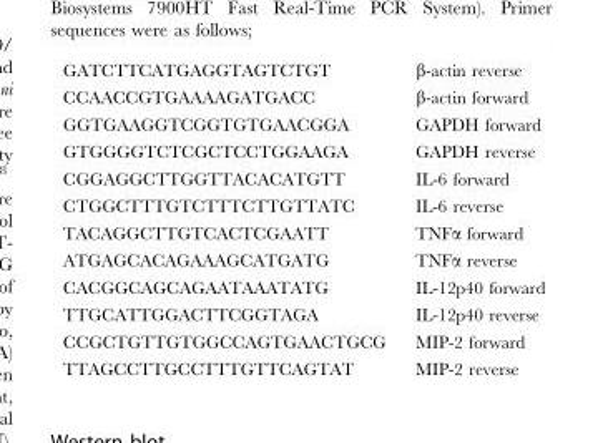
<table><tbody><tr><td>GATCTTCATGAGGTAGTCTGT</td><td>β-actin reverse</td></tr><tr><td>CCAACCGTGAAAAGATGACC</td><td>β-actin forward</td></tr><tr><td>GGTGAAGGTCGGTGTGAACGGA</td><td>GAPDH forward</td></tr><tr><td>GTGGGGTCTCGCTCCTGGAAGA</td><td>GAPDH reverse</td></tr><tr><td>CGGAGGCTTGGTTACACATGTT</td><td>IL-6 forward</td></tr><tr><td>CTGGCTTTGTCTTTCTTGTTATC</td><td>IL-6 reverse</td></tr><tr><td>TACAGGCTTGTCACTCGAATT</td><td>TNFα forward</td></tr><tr><td>ATGAGCACAGAAAGCATGATG</td><td>TNFα reverse</td></tr><tr><td>CACGGCAGCAGAATAAATATG</td><td>IL-12p40 forward</td></tr><tr><td>TTGCATTGGACTTCGGTAGA</td><td>IL-12p40 reverse</td></tr><tr><td>CCGCTGTTGTGGCCAGTGAACTGCG</td><td>MIP-2 forward</td></tr><tr><td>TTAGCCTTGCCTTTGTTCAGTAT</td><td>MIP-2 reverse</td></tr></tbody></table>